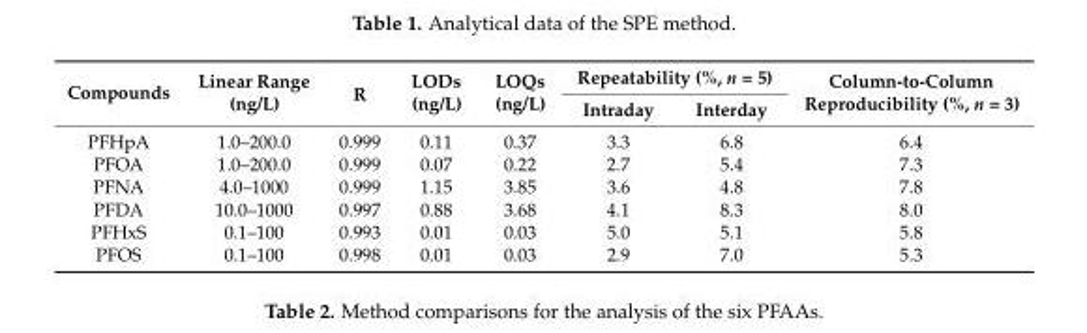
<table><thead><tr><td rowspan="2">Compounds</td><td rowspan="2">Linear Range (ng/L)</td><td rowspan="2">R</td><td rowspan="2">LODs (ng/L)</td><td rowspan="2">LOQs (ng/L)</td><td colspan="2">Repeatability (%, n = 5)</td><td rowspan="2">Column-to-Column Reproducibility (%, n = 3)</td></tr><tr><td>Intraday</td><td>Interday</td></tr></thead><tbody><tr><td>PFHpA</td><td>1.0–200.0</td><td>0.999</td><td>0.11</td><td>0.37</td><td>3.3</td><td>6.8</td><td>6.4</td></tr><tr><td>PFOA</td><td>1.0–200.0</td><td>0.999</td><td>0.07</td><td>0.22</td><td>2.7</td><td>5.4</td><td>7.3</td></tr><tr><td>PFNA</td><td>4.0–1000</td><td>0.999</td><td>1.15</td><td>3.85</td><td>3.6</td><td>4.8</td><td>7.8</td></tr><tr><td>PFDA</td><td>10.0–1000</td><td>0.997</td><td>0.88</td><td>3.68</td><td>4.1</td><td>8.3</td><td>8.0</td></tr><tr><td>PFHxS</td><td>0.1–100</td><td>0.993</td><td>0.01</td><td>0.03</td><td>5.0</td><td>5.1</td><td>5.8</td></tr><tr><td>PFOS</td><td>0.1–100</td><td>0.998</td><td>0.01</td><td>0.03</td><td>2.9</td><td>7.0</td><td>5.3</td></tr></tbody></table>